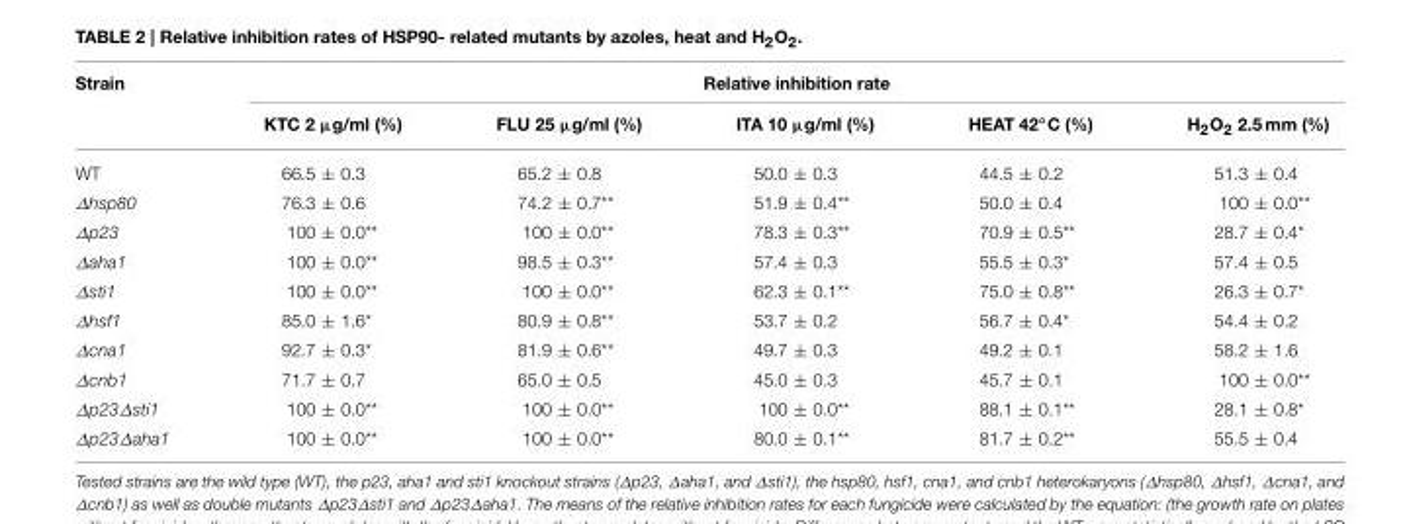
<table><thead><tr><td rowspan="2">Strain</td><td colspan="5">Relative inhibition rate</td></tr><tr><td>KTC 2 µg/ml (%)</td><td>FLU 25 µg/ml (%)</td><td>ITA 10 µg/ml (%)</td><td>HEAT 42◦C (%)</td><td>H<sub>2</sub>O<sub>2</sub> 2.5 mm (%)</td></tr></thead><tbody><tr><td>WT</td><td>66.5 ± 0.3</td><td>65.2 ± 0.8</td><td>50.0 ± 0.3</td><td>44.5 ± 0.2</td><td>51.3 ± 0.4</td></tr><tr><td>∆hsp80</td><td>76.3 ± 0.6</td><td>74.2 ± 0.7**</td><td>51.9 ± 0.4**</td><td>50.0 ± 0.4</td><td>100 ± 0.0**</td></tr><tr><td>∆p23</td><td>100 ± 0.0**</td><td>100 ± 0.0**</td><td>78.3 ± 0.3**</td><td>70.9 ± 0.5**</td><td>28.7 ± 0.4*</td></tr><tr><td>∆aha1</td><td>100 ± 0.0**</td><td>98.5 ± 0.3**</td><td>57.4 ± 0.3</td><td>55.5 ± 0.3*</td><td>57.4 ± 0.5</td></tr><tr><td>∆sti1</td><td>100 ± 0.0**</td><td>100 ± 0.0**</td><td>62.3 ± 0.1**</td><td>75.0 ± 0.8**</td><td>26.3 ± 0.7*</td></tr><tr><td>∆hsf1</td><td>85.0 ± 1.6*</td><td>80.9 ± 0.8**</td><td>53.7 ± 0.2</td><td>56.7 ± 0.4*</td><td>54.4 ± 0.2</td></tr><tr><td>∆cna1</td><td>92.7 ± 0.3*</td><td>81.9 ± 0.6**</td><td>49.7 ± 0.3</td><td>49.2 ± 0.1</td><td>58.2 ± 1.6</td></tr><tr><td>∆cnb1</td><td>71.7 ± 0.7</td><td>65.0 ± 0.5</td><td>45.0 ± 0.3</td><td>45.7 ± 0.1</td><td>100 ± 0.0**</td></tr><tr><td>∆p23∆sti1</td><td>100 ± 0.0**</td><td>100 ± 0.0**</td><td>100 ± 0.0**</td><td>88.1 ± 0.1**</td><td>28.1 ± 0.8*</td></tr><tr><td>∆p23∆aha1</td><td>100 ± 0.0**</td><td>100 ± 0.0**</td><td>80.0 ± 0.1**</td><td>81.7 ± 0.2**</td><td>55.5 ± 0.4</td></tr></tbody></table>